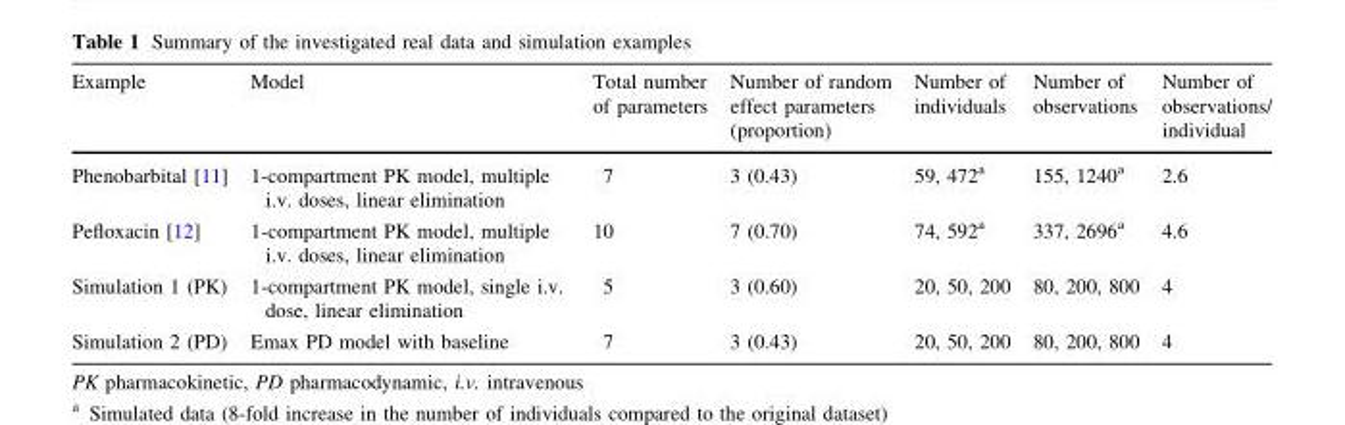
<table><thead><tr><td>Example</td><td>Model</td><td>Total number of parameters</td><td>Number of random effect parameters (proportion)</td><td>Number of individuals</td><td>Number of observations</td><td>Number of observations/ individual</td></tr></thead><tbody><tr><td>Phenobarbital [11]</td><td>1-compartment PK model, multiple i.v. doses, linear elimination</td><td>7</td><td>3 (0.43)</td><td>59, 472<sup>a</sup></td><td>155, 1240<sup>a</sup></td><td>2.6</td></tr><tr><td>Pefloxacin [12]</td><td>1-compartment PK model, multiple i.v. doses, linear elimination</td><td>10</td><td>7 (0.70)</td><td>74, 592<sup>a</sup></td><td>337, 2696<sup>a</sup></td><td>4.6</td></tr><tr><td>Simulation 1 (PK)</td><td>1-compartment PK model, single i.v. dose, linear elimination</td><td>5</td><td>3 (0.60)</td><td>20, 50, 200</td><td>80, 200, 800</td><td>4</td></tr><tr><td>Simulation 2 (PD)</td><td>Emax PD model with baseline</td><td>7</td><td>3 (0.43)</td><td>20, 50, 200</td><td>80, 200, 800</td><td>4</td></tr></tbody></table>